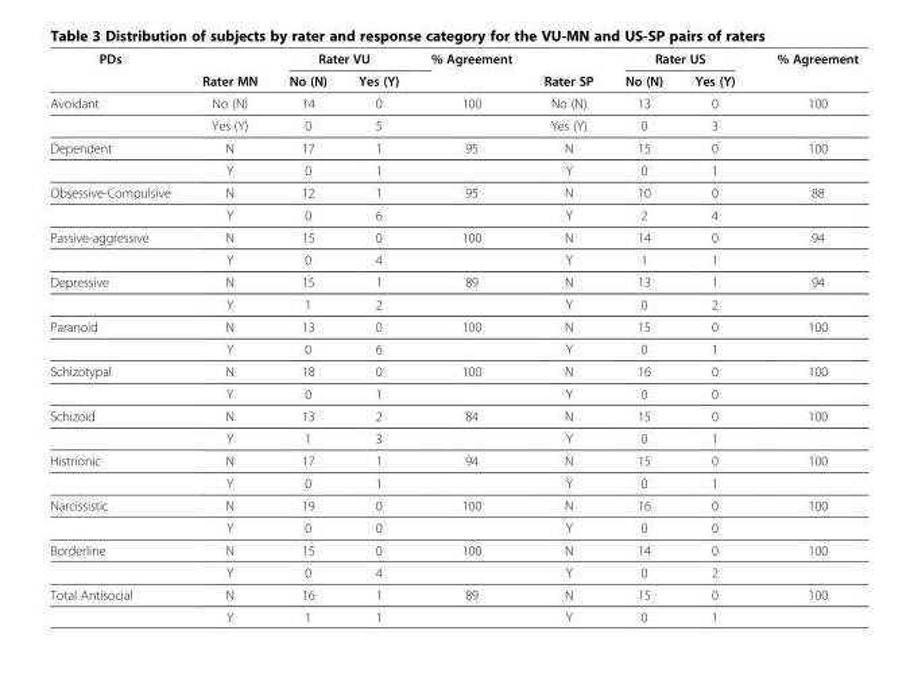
<table><thead><tr><td rowspan="2">PDs</td><td rowspan="2">Rater MN</td><td colspan="2">Rater VU</td><td rowspan="2">% Agreement</td><td rowspan="2">Rater SP</td><td colspan="2">Rater US</td><td rowspan="2">% Agreement</td></tr><tr><td>No (N)</td><td>Yes (Y)</td><td>No (N)</td><td>Yes (Y)</td></tr></thead><tbody><tr><td rowspan="2">Avoidant</td><td>No (N)</td><td>14</td><td>0</td><td>100</td><td>No (N)</td><td>13</td><td>0</td><td>100</td></tr><tr><td>Yes (Y)</td><td>0</td><td>5</td><td></td><td>Yes (Y)</td><td>0</td><td>3</td><td></td></tr><tr><td rowspan="2">Dependent</td><td>N</td><td>17</td><td>1</td><td>95</td><td>N</td><td>15</td><td>0</td><td>100</td></tr><tr><td>Y</td><td>0</td><td>1</td><td></td><td>Y</td><td>0</td><td>1</td><td></td></tr><tr><td rowspan="2">Obsessive-Compulsive</td><td>N</td><td>12</td><td>1</td><td>95</td><td>N</td><td>10</td><td>0</td><td>88</td></tr><tr><td>Y</td><td>0</td><td>6</td><td></td><td>Y</td><td>2</td><td>4</td><td></td></tr><tr><td rowspan="2">Passive-aggressive</td><td>N</td><td>15</td><td>0</td><td>100</td><td>N</td><td>14</td><td>0</td><td>94</td></tr><tr><td>Y</td><td>0</td><td>4</td><td></td><td>Y</td><td>1</td><td>1</td><td></td></tr><tr><td rowspan="2">Depressive</td><td>N</td><td>15</td><td>1</td><td>89</td><td>N</td><td>13</td><td>1</td><td>94</td></tr><tr><td>Y</td><td>1</td><td>2</td><td></td><td>Y</td><td>0</td><td>2</td><td></td></tr><tr><td rowspan="2">Paranoid</td><td>N</td><td>13</td><td>0</td><td>100</td><td>N</td><td>15</td><td>0</td><td>100</td></tr><tr><td>Y</td><td>0</td><td>6</td><td></td><td>Y</td><td>0</td><td>1</td><td></td></tr><tr><td rowspan="2">Schizotypal</td><td>N</td><td>18</td><td>0</td><td>100</td><td>N</td><td>16</td><td>0</td><td>100</td></tr><tr><td>Y</td><td>0</td><td>1</td><td></td><td>Y</td><td>0</td><td>0</td><td></td></tr><tr><td rowspan="2">Schizoid</td><td>N</td><td>13</td><td>2</td><td>84</td><td>N</td><td>15</td><td>0</td><td>100</td></tr><tr><td>Y</td><td>1</td><td>3</td><td></td><td>Y</td><td>0</td><td>1</td><td></td></tr><tr><td rowspan="2">Histrionic</td><td>N</td><td>17</td><td>1</td><td>94</td><td>N</td><td>15</td><td>0</td><td>100</td></tr><tr><td>Y</td><td>0</td><td>1</td><td></td><td>Y</td><td>0</td><td>1</td><td></td></tr><tr><td rowspan="2">Narcissistic</td><td>N</td><td>19</td><td>0</td><td>100</td><td>N</td><td>16</td><td>0</td><td>100</td></tr><tr><td>Y</td><td>0</td><td>0</td><td></td><td>Y</td><td>0</td><td>0</td><td></td></tr><tr><td rowspan="2">Borderline</td><td>N</td><td>15</td><td>0</td><td>100</td><td>N</td><td>14</td><td>0</td><td>100</td></tr><tr><td>Y</td><td>0</td><td>4</td><td></td><td>Y</td><td>0</td><td>2</td><td></td></tr><tr><td rowspan="2">Total Antisocial</td><td>N</td><td>16</td><td>1</td><td>89</td><td>N</td><td>15</td><td>0</td><td>100</td></tr><tr><td>Y</td><td>1</td><td>1</td><td></td><td>Y</td><td>0</td><td>1</td><td></td></tr></tbody></table>